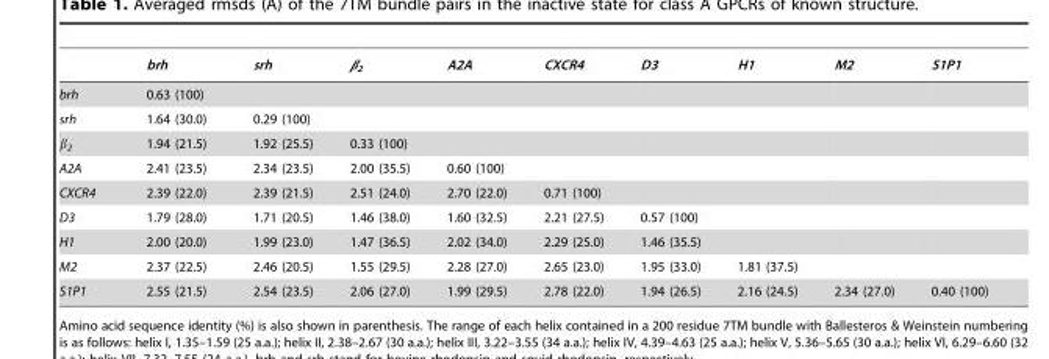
<table><thead><tr><td></td><td>brh</td><td>srh</td><td>β<sub>2</sub></td><td>A2A</td><td>CXCR4</td><td>D3</td><td>H1</td><td>M2</td><td>S1P1</td></tr></thead><tbody><tr><td>brh</td><td>0.63 (100)</td><td></td><td></td><td></td><td></td><td></td><td></td><td></td><td></td></tr><tr><td>srh</td><td>1.64 (30.0)</td><td>0.29 (100)</td><td></td><td></td><td></td><td></td><td></td><td></td><td></td></tr><tr><td>β<sub>2</sub></td><td>1.94 (21.5)</td><td>1.92 (25.5)</td><td>0.33 (100)</td><td></td><td></td><td></td><td></td><td></td><td></td></tr><tr><td>A2A</td><td>2.41 (23.5)</td><td>2.34 (23.5)</td><td>2.00 (35.5)</td><td>0.60 (100)</td><td></td><td></td><td></td><td></td><td></td></tr><tr><td>CXCR4</td><td>2.39 (22.0)</td><td>2.39 (21.5)</td><td>2.51 (24.0)</td><td>2.70 (22.0)</td><td>0.71 (100)</td><td></td><td></td><td></td><td></td></tr><tr><td>D3</td><td>1.79 (28.0)</td><td>1.71 (20.5)</td><td>1.46 (38.0)</td><td>1.60 (32.5)</td><td>2.21 (27.5)</td><td>0.57 (100)</td><td></td><td></td><td></td></tr><tr><td>H1</td><td>2.00 (20.0)</td><td>1.99 (23.0)</td><td>1.47 (36.5)</td><td>2.02 (34.0)</td><td>2.29 (25.0)</td><td>1.46 (35.5)</td><td></td><td></td><td></td></tr><tr><td>M2</td><td>2.37 (22.5)</td><td>2.46 (20.5)</td><td>1.55 (29.5)</td><td>2.28 (27.0)</td><td>2.65 (23.0)</td><td>1.95 (33.0)</td><td>1.81 (37.5)</td><td></td><td></td></tr><tr><td>S1P1</td><td>2.55 (21.5)</td><td>2.54 (23.5)</td><td>2.06 (27.0)</td><td>1.99 (29.5)</td><td>2.78 (22.0)</td><td>1.94 (26.5)</td><td>2.16 (24.5)</td><td>2.34 (27.0)</td><td>0.40 (100)</td></tr></tbody></table>